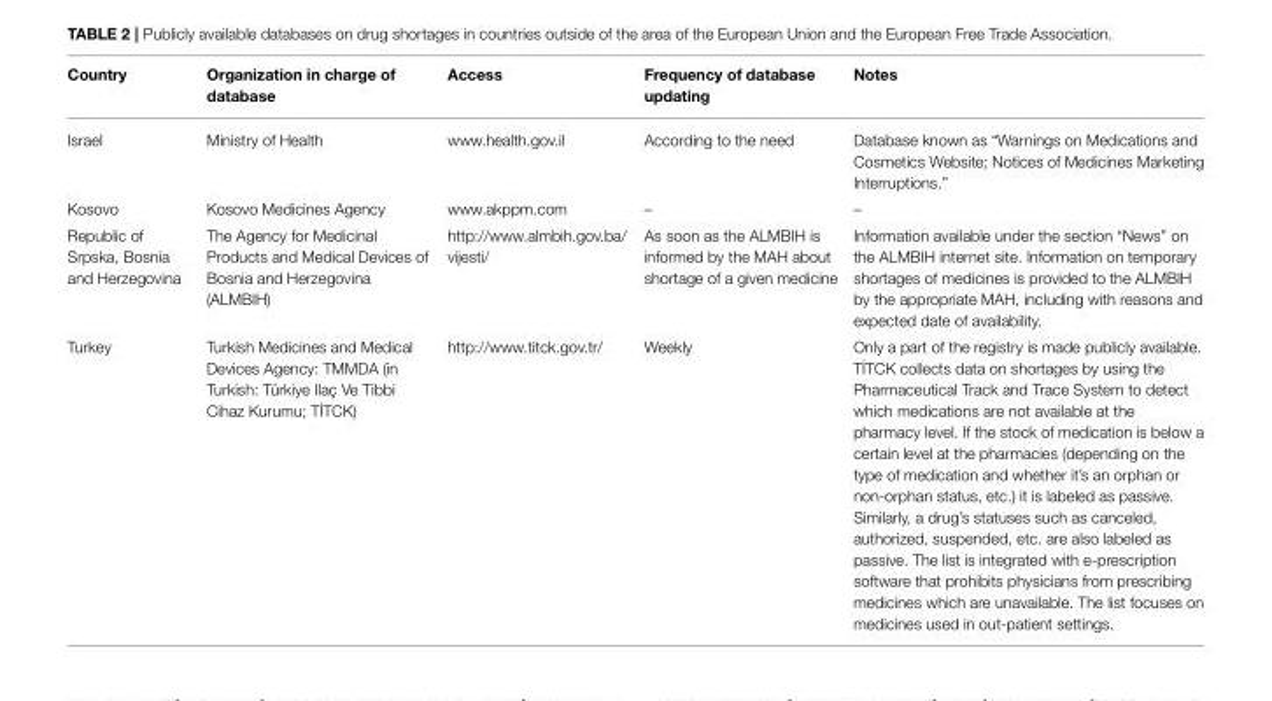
<table><thead><tr><td>Country</td><td>Organization in charge of database</td><td>Access</td><td>Frequency of database updating</td><td>Notes</td></tr></thead><tbody><tr><td>Israel</td><td>Ministry of Health</td><td>www.health.gov.il</td><td>According to the need</td><td>Database known as “Warnings on Medications and Cosmetics Website; Notices of Medicines Marketing Interruptions.”</td></tr><tr><td>Kosovo</td><td>Kosovo Medicines Agency</td><td>www.akppm.com</td><td>–</td><td>–</td></tr><tr><td>Republic of Srpska, Bosnia and Herzegovina</td><td>The Agency for Medicinal Products and Medical Devices of Bosnia and Herzegovina (ALMBIH)</td><td>http://www.almbih.gov.ba/ vijesti/</td><td>As soon as the ALMBIH is informed by the MAH about shortage of a given medicine</td><td>Information available under the section “News” on the ALMBIH internet site. Information on temporary shortages of medicines is provided to the ALMBIH by the appropriate MAH, including with reasons and expected date of availability.</td></tr><tr><td>Turkey</td><td>Turkish Medicines and Medical Devices Agency: TMMDA (in Turkish: Türkiye Ilaç Ve Tibbi Cihaz Kurumu; T˙ITCK)</td><td>http://www.titck.gov.tr/</td><td>Weekly</td><td>Only a part of the registry is made publicly available. T˙ITCK collects data on shortages by using the Pharmaceutical Track and Trace System to detect which medications are not available at the pharmacy level. If the stock of medication is below a certain level at the pharmacies (depending on the type of medication and whether it’s an orphan or non-orphan status, etc.) it is labeled as passive. Similarly, a drug’s statuses such as canceled, authorized, suspended, etc. are also labeled as passive. The list is integrated with e-prescription software that prohibits physicians from prescribing medicines which are unavailable. The list focuses on medicines used in out-patient settings.</td></tr></tbody></table>